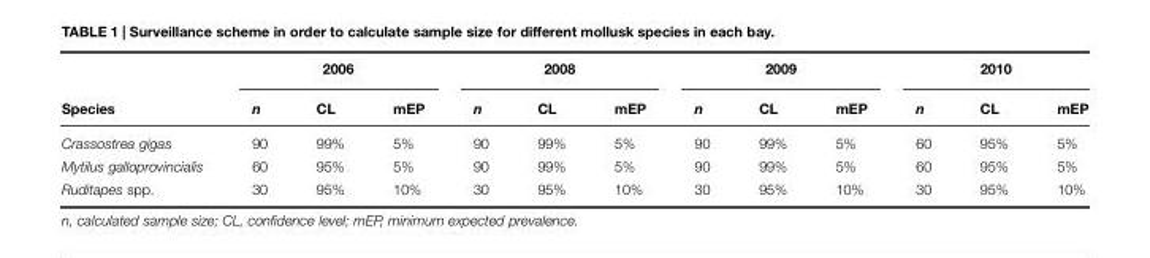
<table><thead><tr><td rowspan="2">Species</td><td colspan="3">2006</td><td colspan="3">2008</td><td colspan="3">2009</td><td colspan="3">2010</td></tr><tr><td>n</td><td>CL</td><td>mEP</td><td>n</td><td>CL</td><td>mEP</td><td>n</td><td>CL</td><td>mEP</td><td>n</td><td>CL</td><td>mEP</td></tr></thead><tbody><tr><td>Crassostrea gigas</td><td>90</td><td>99%</td><td>5%</td><td>90</td><td>99%</td><td>5%</td><td>90</td><td>99%</td><td>5%</td><td>60</td><td>95%</td><td>5%</td></tr><tr><td>Mytilus galloprovincialis</td><td>60</td><td>95%</td><td>5%</td><td>90</td><td>99%</td><td>5%</td><td>90</td><td>99%</td><td>5%</td><td>60</td><td>95%</td><td>5%</td></tr><tr><td>Ruditapes spp.</td><td>30</td><td>95%</td><td>10%</td><td>30</td><td>95%</td><td>10%</td><td>30</td><td>95%</td><td>10%</td><td>30</td><td>95%</td><td>10%</td></tr></tbody></table>